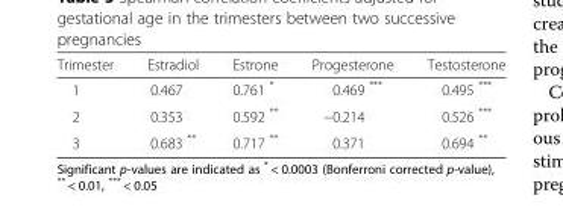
<table><thead><tr><td>Trimester</td><td>Estradiol</td><td>Estrone</td><td>Progesterone</td><td>Testosterone</td></tr></thead><tbody><tr><td>1</td><td>0.467</td><td>0.761 *</td><td>0.469 ***</td><td>0.495 ***</td></tr><tr><td>2</td><td>0.353</td><td>0.592 **</td><td>−0.214</td><td>0.526 ***</td></tr><tr><td>3</td><td>0.683 **</td><td>0.717 **</td><td>0.371</td><td>0.694 **</td></tr></tbody></table>